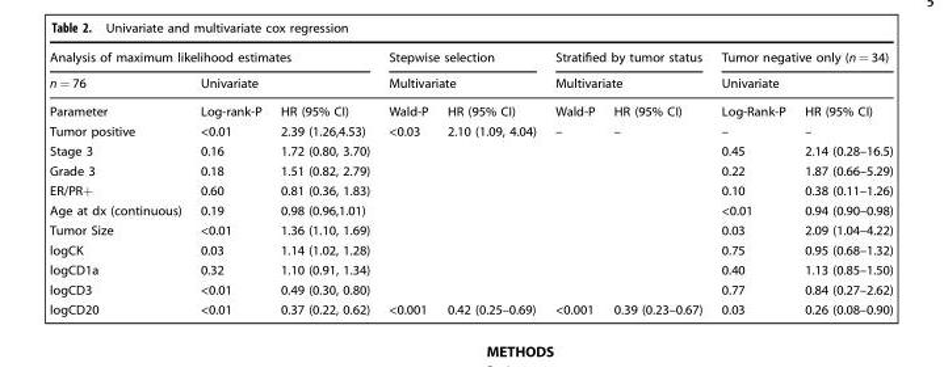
<table><thead><tr><td colspan="3">Analysis of maximum likelihood estimates</td><td rowspan="2" colspan="2">Stepwise selection Multivariate</td><td rowspan="2" colspan="2">Stratified by tumor status Multivariate</td><td rowspan="2" colspan="2">Tumor negative only (n = 34) Univariate</td></tr><tr><td rowspan="2">n = 76 Parameter</td><td colspan="2">Univariate</td></tr><tr><td>Log-rank-P</td><td>HR (95% CI)</td><td>Wald-P</td><td>HR (95% CI)</td><td>Wald-P</td><td>HR (95% CI)</td><td>Log-Rank-P</td><td>HR (95% CI)</td></tr></thead><tbody><tr><td>Tumor positive</td><td>&lt;0.01</td><td>2.39 (1.26,4.53)</td><td>&lt;0.03</td><td>2.10 (1.09, 4.04)</td><td>–</td><td>–</td><td>–</td><td>–</td></tr><tr><td>Stage 3</td><td>0.16</td><td>1.72 (0.80, 3.70)</td><td></td><td></td><td></td><td></td><td>0.45</td><td>2.14 (0.28–16.5)</td></tr><tr><td>Grade 3</td><td>0.18</td><td>1.51 (0.82, 2.79)</td><td></td><td></td><td></td><td></td><td>0.22</td><td>1.87 (0.66–5.29)</td></tr><tr><td>ER/PR+</td><td>0.60</td><td>0.81 (0.36, 1.83)</td><td></td><td></td><td></td><td></td><td>0.10</td><td>0.38 (0.11–1.26)</td></tr><tr><td>Age at dx (continuous)</td><td>0.19</td><td>0.98 (0.96,1.01)</td><td></td><td></td><td></td><td></td><td>&lt;0.01</td><td>0.94 (0.90–0.98)</td></tr><tr><td>Tumor Size</td><td>&lt;0.01</td><td>1.36 (1.10, 1.69)</td><td></td><td></td><td></td><td></td><td>0.03</td><td>2.09 (1.04–4.22)</td></tr><tr><td>logCK</td><td>0.03</td><td>1.14 (1.02, 1.28)</td><td></td><td></td><td></td><td></td><td>0.75</td><td>0.95 (0.68–1.32)</td></tr><tr><td>logCD1a</td><td>0.32</td><td>1.10 (0.91, 1.34)</td><td></td><td></td><td></td><td></td><td>0.40</td><td>1.13 (0.85–1.50)</td></tr><tr><td>logCD3</td><td>&lt;0.01</td><td>0.49 (0.30, 0.80)</td><td></td><td></td><td></td><td></td><td>0.77</td><td>0.84 (0.27–2.62)</td></tr><tr><td>logCD20</td><td>&lt;0.01</td><td>0.37 (0.22, 0.62)</td><td>&lt;0.001</td><td>0.42 (0.25–0.69)</td><td>&lt;0.001</td><td>0.39 (0.23–0.67)</td><td>0.03</td><td>0.26 (0.08–0.90)</td></tr></tbody></table>